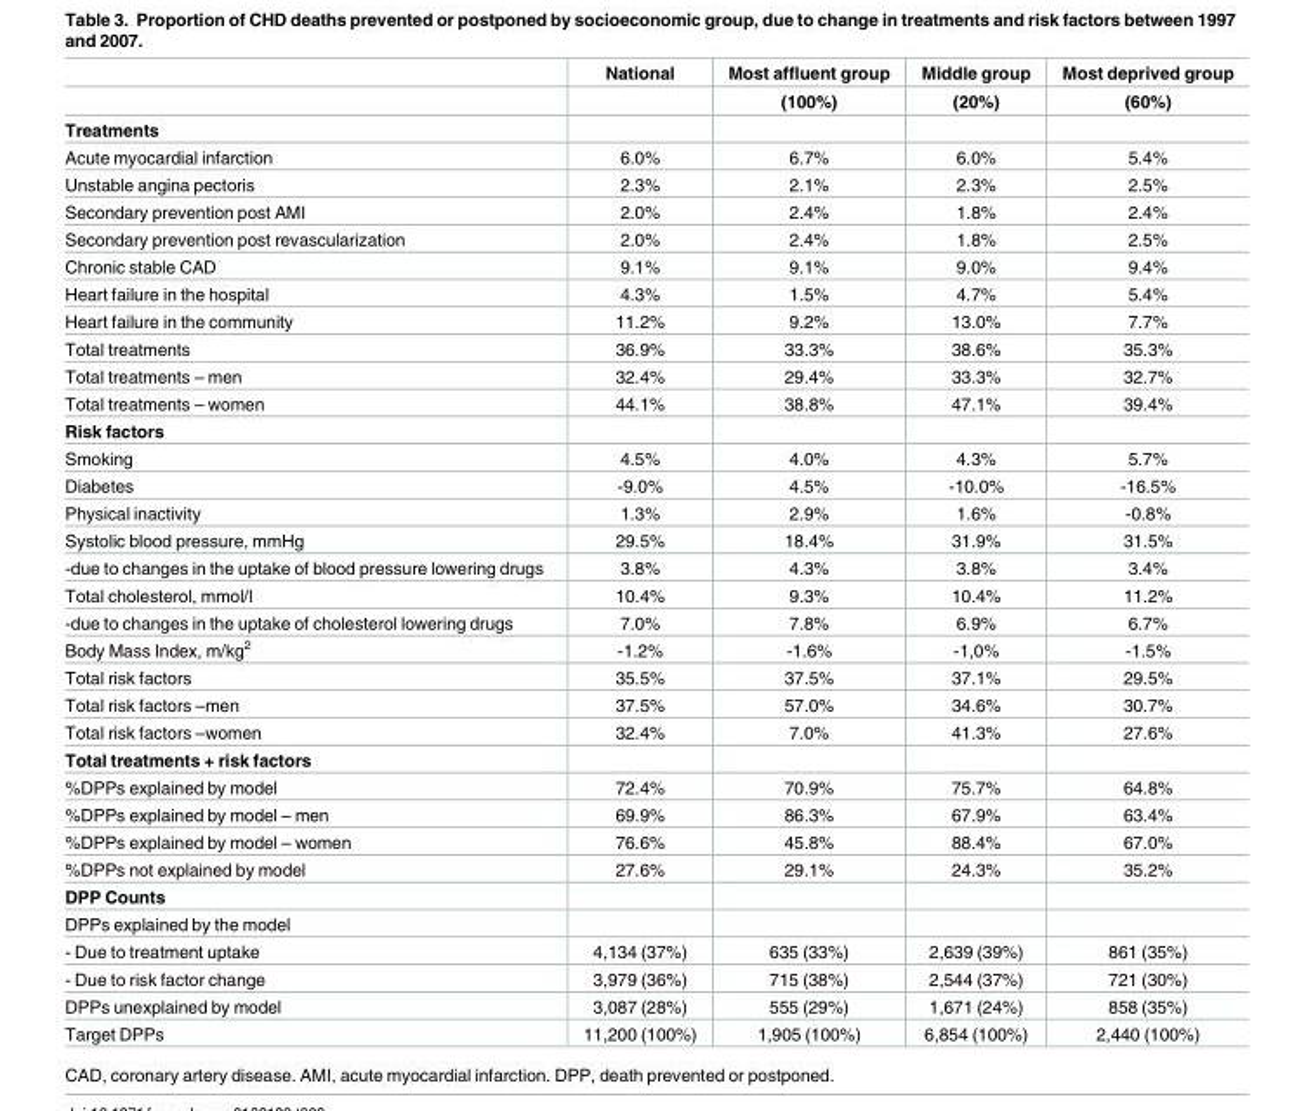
<table><thead><tr><td rowspan="2"></td><td rowspan="2">National</td><td rowspan="2">Most affluent group (100%)</td><td rowspan="2">Middle group (20%)</td><td rowspan="2">Most deprived group (60%)</td></tr><tr></tr></thead><tbody><tr><td colspan="5">Treatments</td></tr><tr><td>Acute myocardial infarction</td><td>6.0%</td><td>6.7%</td><td>6.0%</td><td>5.4%</td></tr><tr><td>Unstable angina pectoris</td><td>2.3%</td><td>2.1%</td><td>2.3%</td><td>2.5%</td></tr><tr><td>Secondary prevention post AMI</td><td>2.0%</td><td>2.4%</td><td>1.8%</td><td>2.4%</td></tr><tr><td>Secondary prevention post revascularization</td><td>2.0%</td><td>2.4%</td><td>1.8%</td><td>2.5%</td></tr><tr><td>Chronic stable CAD</td><td>9.1%</td><td>9.1%</td><td>9.0%</td><td>9.4%</td></tr><tr><td>Heart failure in the hospital</td><td>4.3%</td><td>1.5%</td><td>4.7%</td><td>5.4%</td></tr><tr><td>Heart failure in the community</td><td>11.2%</td><td>9.2%</td><td>13.0%</td><td>7.7%</td></tr><tr><td>Total treatments</td><td>36.9%</td><td>33.3%</td><td>38.6%</td><td>35.3%</td></tr><tr><td>Total treatments – men</td><td>32.4%</td><td>29.4%</td><td>33.3%</td><td>32.7%</td></tr><tr><td>Total treatments – women</td><td>44.1%</td><td>38.8%</td><td>47.1%</td><td>39.4%</td></tr><tr><td colspan="5">Risk factors</td></tr><tr><td>Smoking</td><td>4.5%</td><td>4.0%</td><td>4.3%</td><td>5.7%</td></tr><tr><td>Diabetes</td><td>-9.0%</td><td>4.5%</td><td>-10.0%</td><td>-16.5%</td></tr><tr><td>Physical inactivity</td><td>1.3%</td><td>2.9%</td><td>1.6%</td><td>-0.8%</td></tr><tr><td>Systolic blood pressure, mmHg</td><td>29.5%</td><td>18.4%</td><td>31.9%</td><td>31.5%</td></tr><tr><td>-due to changes in the uptake of blood pressure lowering drugs</td><td>3.8%</td><td>4.3%</td><td>3.8%</td><td>3.4%</td></tr><tr><td>Total cholesterol, mmol/l</td><td>10.4%</td><td>9.3%</td><td>10.4%</td><td>11.2%</td></tr><tr><td>-due to changes in the uptake of cholesterol lowering drugs</td><td>7.0%</td><td>7.8%</td><td>6.9%</td><td>6.7%</td></tr><tr><td>Body Mass Index, m/kg<sup>2</sup></td><td>-1.2%</td><td>-1.6%</td><td>-1,0%</td><td>-1.5%</td></tr><tr><td>Total risk factors</td><td>35.5%</td><td>37.5%</td><td>37.1%</td><td>29.5%</td></tr><tr><td>Total risk factors –men</td><td>37.5%</td><td>57.0%</td><td>34.6%</td><td>30.7%</td></tr><tr><td>Total risk factors –women</td><td>32.4%</td><td>7.0%</td><td>41.3%</td><td>27.6%</td></tr><tr><td colspan="5">Total treatments + risk factors</td></tr><tr><td>%DPPs explained by model</td><td>72.4%</td><td>70.9%</td><td>75.7%</td><td>64.8%</td></tr><tr><td>%DPPs explained by model – men</td><td>69.9%</td><td>86.3%</td><td>67.9%</td><td>63.4%</td></tr><tr><td>%DPPs explained by model – women</td><td>76.6%</td><td>45.8%</td><td>88.4%</td><td>67.0%</td></tr><tr><td>%DPPs not explained by model</td><td>27.6%</td><td>29.1%</td><td>24.3%</td><td>35.2%</td></tr><tr><td colspan="5">DPP Counts</td></tr><tr><td colspan="5">DPPs explained by the model</td></tr><tr><td>- Due to treatment uptake</td><td>4,134 (37%)</td><td>635 (33%)</td><td>2,639 (39%)</td><td>861 (35%)</td></tr><tr><td>- Due to risk factor change</td><td>3,979 (36%)</td><td>715 (38%)</td><td>2,544 (37%)</td><td>721 (30%)</td></tr><tr><td>DPPs unexplained by model</td><td>3,087 (28%)</td><td>555 (29%)</td><td>1,671 (24%)</td><td>858 (35%)</td></tr><tr><td>Target DPPs</td><td>11,200 (100%)</td><td>1,905 (100%)</td><td>6,854 (100%)</td><td>2,440 (100%)</td></tr></tbody></table>